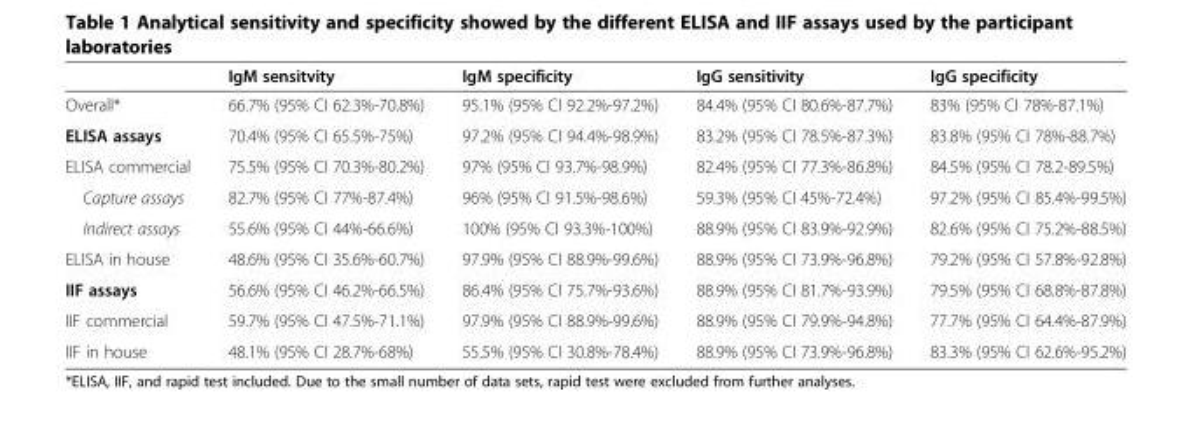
<table><thead><tr><td></td><td>IgM sensitvity</td><td>IgM specificity</td><td>IgG sensitivity</td><td>IgG specificity</td></tr></thead><tbody><tr><td>Overall*</td><td>66.7% (95% CI 62.3%-70.8%)</td><td>95.1% (95% CI 92.2%-97.2%)</td><td>84.4% (95% CI 80.6%-87.7%)</td><td>83% (95% CI 78%-87.1%)</td></tr><tr><td>ELISA assays</td><td>70.4% (95% CI 65.5%-75%)</td><td>97.2% (95% CI 94.4%-98.9%)</td><td>83.2% (95% CI 78.5%-87.3%)</td><td>83.8% (95% CI 78%-88.7%)</td></tr><tr><td>ELISA commercial</td><td>75.5% (95% CI 70.3%-80.2%)</td><td>97% (95% CI 93.7%-98.9%)</td><td>82.4% (95% CI 77.3%-86.8%)</td><td>84.5% (95% CI 78.2-89.5%)</td></tr><tr><td>Capture assays</td><td>82.7% (95% CI 77%-87.4%)</td><td>96% (95% CI 91.5%-98.6%)</td><td>59.3% (95% CI 45%-72.4%)</td><td>97.2% (95% CI 85.4%-99.5%)</td></tr><tr><td>Indirect assays</td><td>55.6% (95% CI 44%-66.6%)</td><td>100% (95% CI 93.3%-100%)</td><td>88.9% (95% CI 83.9%-92.9%)</td><td>82.6% (95% CI 75.2%-88.5%)</td></tr><tr><td>ELISA in house</td><td>48.6% (95% CI 35.6%-60.7%)</td><td>97.9% (95% CI 88.9%-99.6%)</td><td>88.9% (95% CI 73.9%-96.8%)</td><td>79.2% (95% CI 57.8%-92.8%)</td></tr><tr><td>IIF assays</td><td>56.6% (95% CI 46.2%-66.5%)</td><td>86.4% (95% CI 75.7%-93.6%)</td><td>88.9% (95% CI 81.7%-93.9%)</td><td>79.5% (95% CI 68.8%-87.8%)</td></tr><tr><td>IIF commercial</td><td>59.7% (95% CI 47.5%-71.1%)</td><td>97.9% (95% CI 88.9%-99.6%)</td><td>88.9% (95% CI 79.9%-94.8%)</td><td>77.7% (95% CI 64.4%-87.9%)</td></tr><tr><td>IIF in house</td><td>48.1% (95% CI 28.7%-68%)</td><td>55.5% (95% CI 30.8%-78.4%)</td><td>88.9% (95% CI 73.9%-96.8%)</td><td>83.3% (95% CI 62.6%-95.2%)</td></tr></tbody></table>